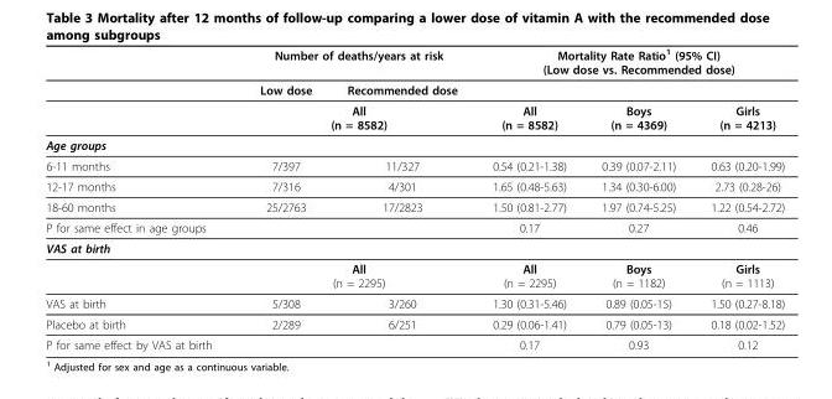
<table><thead><tr><td rowspan="2"></td><td colspan="2">Number of deaths/years at risk</td><td colspan="3">Mortality Rate Ratio<sup>1</sup> (95% CI) (Low dose vs. Recommended dose)</td></tr><tr><td>Low dose</td><td>Recommended dose</td><td></td><td></td><td></td></tr></thead><tbody><tr><td></td><td colspan="2">All (n = 8582)</td><td>All (n = 8582)</td><td>Boys (n = 4369)</td><td>Girls (n = 4213)</td></tr><tr><td colspan="6">Age groups</td></tr><tr><td>6-11 months</td><td>7/397</td><td>11/327</td><td>0.54 (0.21-1.38)</td><td>0.39 (0.07-2.11)</td><td>0.63 (0.20-1.99)</td></tr><tr><td>12-17 months</td><td>7/316</td><td>4/301</td><td>1.65 (0.48-5.63)</td><td>1.34 (0.30-6.00)</td><td>2.73 (0.28-26)</td></tr><tr><td>18-60 months</td><td>25/2763</td><td>17/2823</td><td>1.50 (0.81-2.77)</td><td>1.97 (0.74-5.25)</td><td>1.22 (0.54-2.72)</td></tr><tr><td>P for same effect in age groups</td><td></td><td></td><td>0.17</td><td>0.27</td><td>0.46</td></tr><tr><td colspan="6">VAS at birth</td></tr><tr><td></td><td colspan="2">All (n = 2295)</td><td>All (n = 2295)</td><td>Boys (n = 1182)</td><td>Girls (n = 1113)</td></tr><tr><td>VAS at birth</td><td>5/308</td><td>3/260</td><td>1.30 (0.31-5.46)</td><td>0.89 (0.05-15)</td><td>1.50 (0.27-8.18)</td></tr><tr><td>Placebo at birth</td><td>2/289</td><td>6/251</td><td>0.29 (0.06-1.41)</td><td>0.79 (0.05-13)</td><td>0.18 (0.02-1.52)</td></tr><tr><td>P for same effect by VAS at birth</td><td></td><td></td><td>0.17</td><td>0.93</td><td>0.12</td></tr></tbody></table>